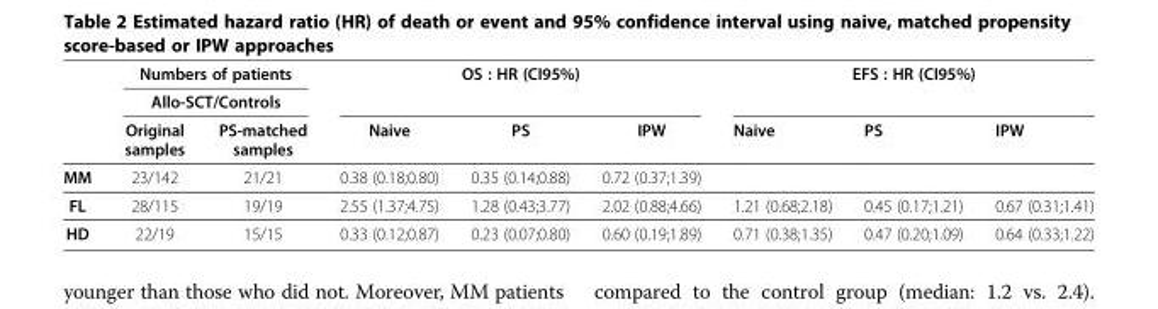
<table><thead><tr><td rowspan="3"></td><td rowspan="2" colspan="2">Numbers of patients Allo-SCT/Controls</td><td colspan="3">OS : HR (CI95%)</td><td colspan="3">EFS : HR (CI95%)</td></tr><tr><td rowspan="2">Naive</td><td rowspan="2">PS</td><td rowspan="2">IPW</td><td rowspan="2">Naive</td><td rowspan="2">PS</td><td rowspan="2">IPW</td></tr><tr><td>Original samples</td><td>PS-matched samples</td></tr></thead><tbody><tr><td>MM</td><td>23/142</td><td>21/21</td><td>0.38 (0.18;0.80)</td><td>0.35 (0.14;0.88)</td><td>0.72 (0.37;1.39)</td><td></td><td></td><td></td></tr><tr><td>FL</td><td>28/115</td><td>19/19</td><td>2.55 (1.37;4.75)</td><td>1.28 (0.43;3.77)</td><td>2.02 (0.88;4.66)</td><td>1.21 (0.68;2.18)</td><td>0.45 (0.17;1.21)</td><td>0.67 (0.31;1.41)</td></tr><tr><td>HD</td><td>22/19</td><td>15/15</td><td>0.33 (0.12;0.87)</td><td>0.23 (0.07;0.80)</td><td>0.60 (0.19;1.89)</td><td>0.71 (0.38;1.35)</td><td>0.47 (0.20;1.09)</td><td>0.64 (0.33;1.22)</td></tr></tbody></table>